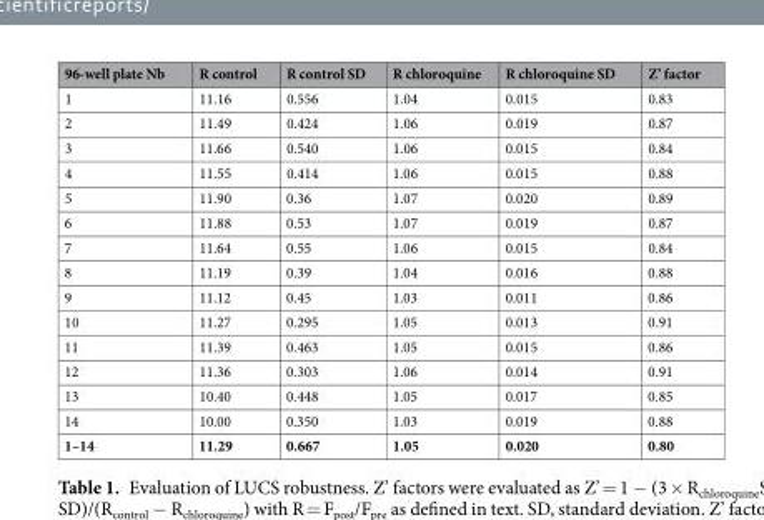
<table><thead><tr><td>96-well plate Nb</td><td>R control</td><td>R control SD</td><td>R chloroquine</td><td>R chloroquine SD</td><td>Z’ factor</td></tr></thead><tbody><tr><td>1</td><td>11.16</td><td>0.556</td><td>1.04</td><td>0.015</td><td>0.83</td></tr><tr><td>2</td><td>11.49</td><td>0.424</td><td>1.06</td><td>0.019</td><td>0.87</td></tr><tr><td>3</td><td>11.66</td><td>0.540</td><td>1.06</td><td>0.015</td><td>0.84</td></tr><tr><td>4</td><td>11.55</td><td>0.414</td><td>1.06</td><td>0.015</td><td>0.88</td></tr><tr><td>5</td><td>11.90</td><td>0.36</td><td>1.07</td><td>0.020</td><td>0.89</td></tr><tr><td>6</td><td>11.88</td><td>0.53</td><td>1.07</td><td>0.019</td><td>0.87</td></tr><tr><td>7</td><td>11.64</td><td>0.55</td><td>1.06</td><td>0.015</td><td>0.84</td></tr><tr><td>8</td><td>11.19</td><td>0.39</td><td>1.04</td><td>0.016</td><td>0.88</td></tr><tr><td>9</td><td>11.12</td><td>0.45</td><td>1.03</td><td>0.011</td><td>0.86</td></tr><tr><td>10</td><td>11.27</td><td>0.295</td><td>1.05</td><td>0.013</td><td>0.91</td></tr><tr><td>11</td><td>11.39</td><td>0.463</td><td>1.05</td><td>0.015</td><td>0.86</td></tr><tr><td>12</td><td>11.36</td><td>0.303</td><td>1.06</td><td>0.014</td><td>0.91</td></tr><tr><td>13</td><td>10.40</td><td>0.448</td><td>1.05</td><td>0.017</td><td>0.85</td></tr><tr><td>14</td><td>10.00</td><td>0.350</td><td>1.03</td><td>0.019</td><td>0.88</td></tr><tr><td>1–14</td><td>11.29</td><td>0.667</td><td>1.05</td><td>0.020</td><td>0.80</td></tr></tbody></table>